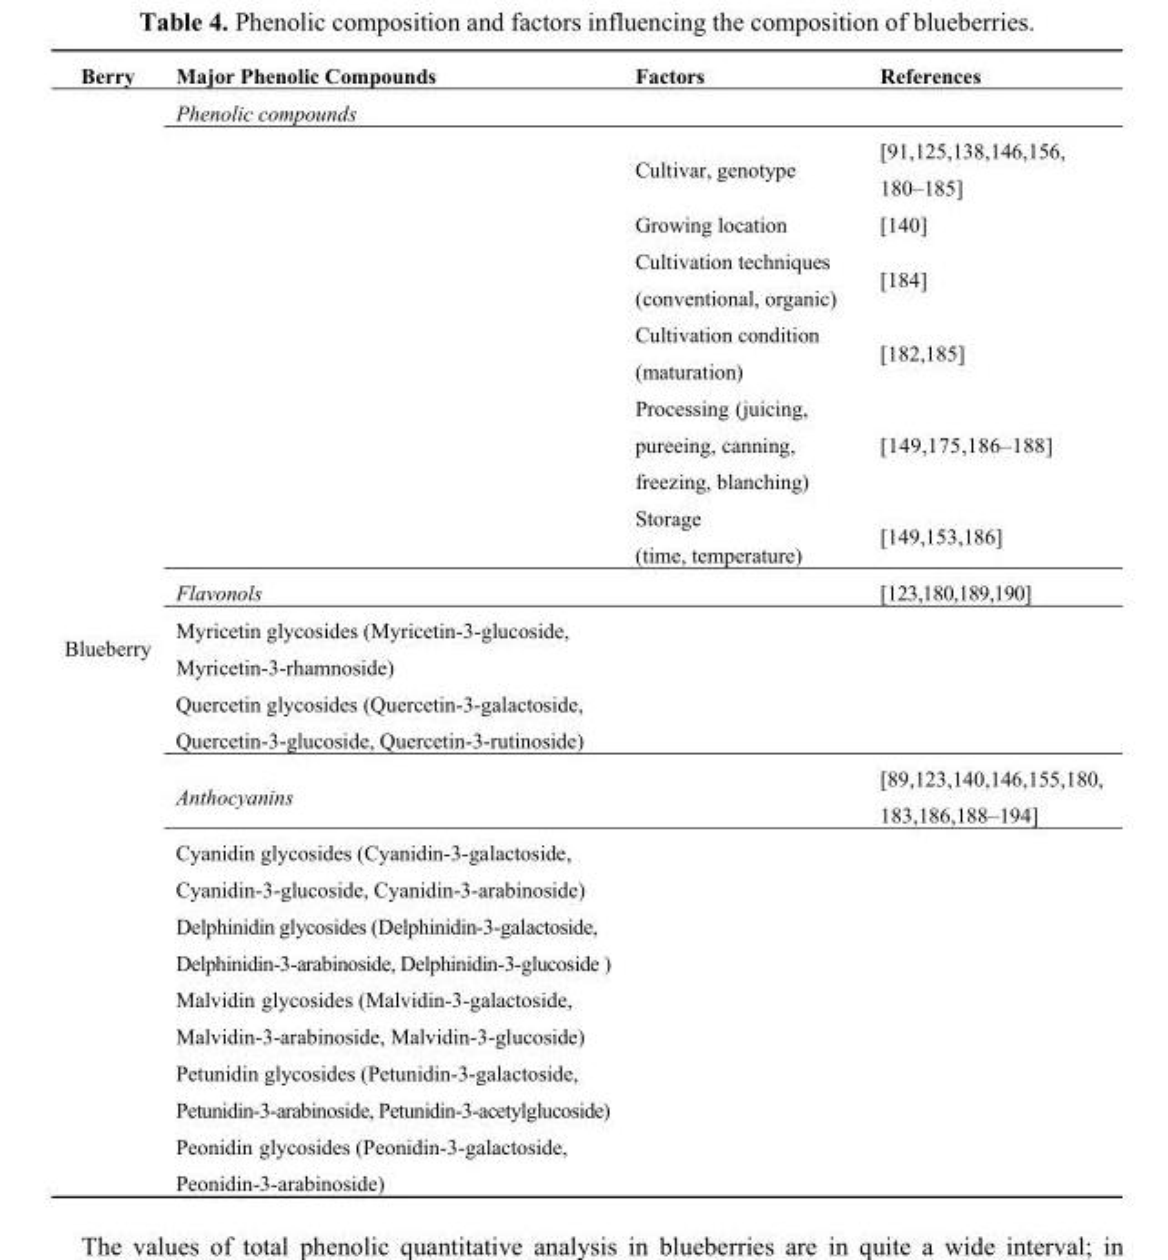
<table><thead><tr><td>Berry</td><td>Major Phenolic Compounds</td><td>Factors</td><td>References</td></tr></thead><tbody><tr><td rowspan="16">Blueberry</td><td>Phenolic compounds</td><td></td><td></td></tr><tr><td></td><td>Cultivar, genotype</td><td>[91,125,138,146,156, 180–185]</td></tr><tr><td></td><td>Growing location</td><td>[140]</td></tr><tr><td></td><td>Cultivation techniques (conventional, organic)</td><td>[184]</td></tr><tr><td></td><td>Cultivation condition (maturation)</td><td>[182,185]</td></tr><tr><td></td><td>Processing (juicing, pureeing, canning, freezing, blanching)</td><td>[149,175,186–188]</td></tr><tr><td></td><td>Storage (time, temperature)</td><td>[149,153,186]</td></tr><tr><td>Flavonols</td><td></td><td>[123,180,189,190]</td></tr><tr><td>Myricetin glycosides (Myricetin-3-glucoside, Myricetin-3-rhamnoside)</td><td></td><td></td></tr><tr><td>Quercetin glycosides (Quercetin-3-galactoside, Quercetin-3-glucoside, Quercetin-3-rutinoside)</td><td></td><td></td></tr><tr><td>Anthocyanins</td><td></td><td>[89,123,140,146,155,180, 183,186,188–194]</td></tr><tr><td>Cyanidin glycosides (Cyanidin-3-galactoside, Cyanidin-3-glucoside, Cyanidin-3-arabinoside)</td><td></td><td></td></tr><tr><td>Delphinidin glycosides (Delphinidin-3-galactoside, Delphinidin-3-arabinoside, Delphinidin-3-glucoside )</td><td></td><td></td></tr><tr><td>Malvidin glycosides (Malvidin-3-galactoside, Malvidin-3-arabinoside, Malvidin-3-glucoside)</td><td></td><td></td></tr><tr><td>Petunidin glycosides (Petunidin-3-galactoside, Petunidin-3-arabinoside, Petunidin-3-acetylglucoside)</td><td></td><td></td></tr><tr><td>Peonidin glycosides (Peonidin-3-galactoside, Peonidin-3-arabinoside)</td><td></td><td></td></tr></tbody></table>